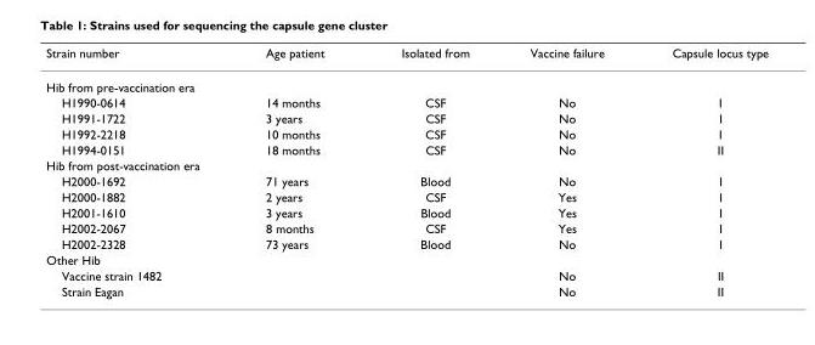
<table><thead><tr><td>Strain number</td><td>Age patient</td><td>Isolated from</td><td>Vaccine failure</td><td>Capsule locus type</td></tr></thead><tbody><tr><td colspan="5">Hib from pre-vaccination era</td></tr><tr><td>H1990-0614</td><td>14 months</td><td>CSF</td><td>No</td><td>I</td></tr><tr><td>H1991-1722</td><td>3 years</td><td>CSF</td><td>No</td><td>I</td></tr><tr><td>H1992-2218</td><td>10 months</td><td>CSF</td><td>No</td><td>I</td></tr><tr><td>H1994-0151</td><td>18 months</td><td>CSF</td><td>No</td><td>II</td></tr><tr><td colspan="5">Hib from post-vaccination era</td></tr><tr><td>H2000-1692</td><td>71 years</td><td>Blood</td><td>No</td><td>I</td></tr><tr><td>H2000-1882</td><td>2 years</td><td>CSF</td><td>Yes</td><td>I</td></tr><tr><td>H2001-1610</td><td>3 years</td><td>Blood</td><td>Yes</td><td>I</td></tr><tr><td>H2002-2067</td><td>8 months</td><td>CSF</td><td>Yes</td><td>I</td></tr><tr><td>H2002-2328</td><td>73 years</td><td>Blood</td><td>No</td><td>I</td></tr><tr><td colspan="5">Other Hib</td></tr><tr><td>Vaccine strain 1482</td><td></td><td></td><td>No</td><td>II</td></tr><tr><td>Strain Eagan</td><td></td><td></td><td>No</td><td>II</td></tr></tbody></table>